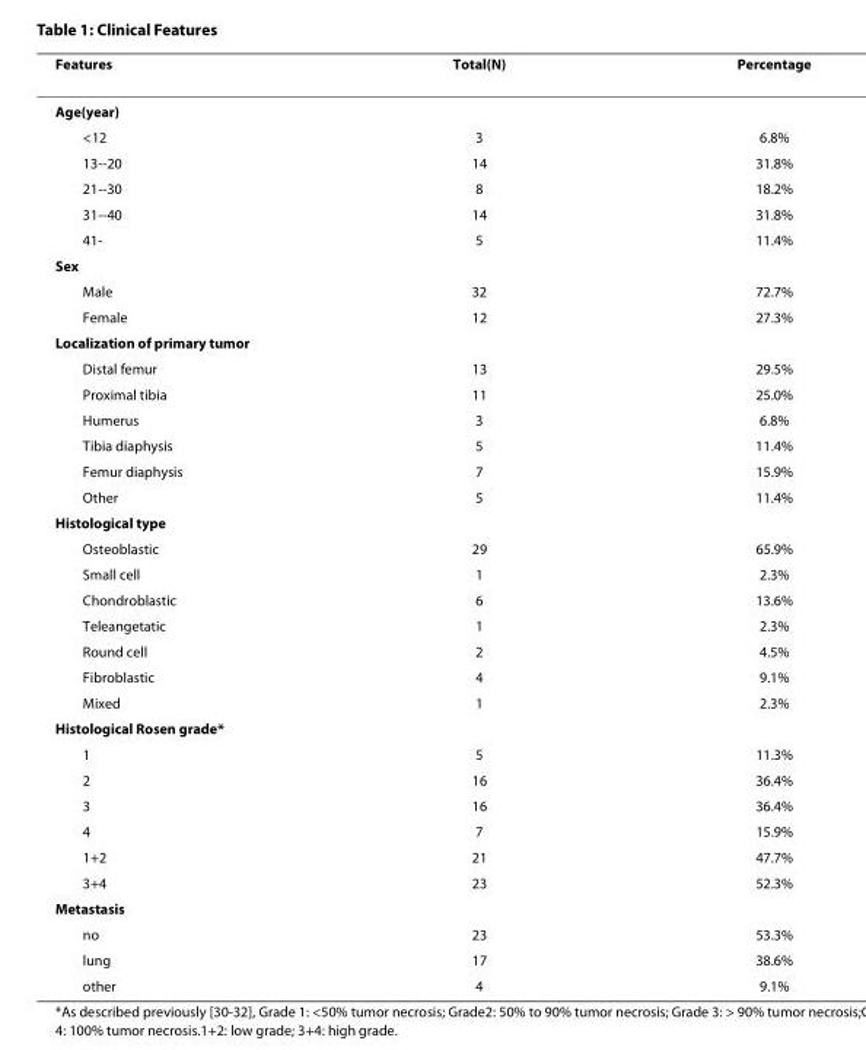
<table><thead><tr><td>Features</td><td>Total(N)</td><td>Percentage</td></tr></thead><tbody><tr><td colspan="3">Age(year)</td></tr><tr><td>&lt;12</td><td>3</td><td>6.8%</td></tr><tr><td>13--20</td><td>14</td><td>31.8%</td></tr><tr><td>21--30</td><td>8</td><td>18.2%</td></tr><tr><td>31--40</td><td>14</td><td>31.8%</td></tr><tr><td>41-</td><td>5</td><td>11.4%</td></tr><tr><td colspan="3">Sex</td></tr><tr><td>Male</td><td>32</td><td>72.7%</td></tr><tr><td>Female</td><td>12</td><td>27.3%</td></tr><tr><td colspan="3">Localization of primary tumor</td></tr><tr><td>Distal femur</td><td>13</td><td>29.5%</td></tr><tr><td>Proximal tibia</td><td>11</td><td>25.0%</td></tr><tr><td>Humerus</td><td>3</td><td>6.8%</td></tr><tr><td>Tibia diaphysis</td><td>5</td><td>11.4%</td></tr><tr><td>Femur diaphysis</td><td>7</td><td>15.9%</td></tr><tr><td>Other</td><td>5</td><td>11.4%</td></tr><tr><td colspan="3">Histological type</td></tr><tr><td>Osteoblastic</td><td>29</td><td>65.9%</td></tr><tr><td>Small cell</td><td>1</td><td>2.3%</td></tr><tr><td>Chondroblastic</td><td>6</td><td>13.6%</td></tr><tr><td>Teleangetatic</td><td>1</td><td>2.3%</td></tr><tr><td>Round cell</td><td>2</td><td>4.5%</td></tr><tr><td>Fibroblastic</td><td>4</td><td>9.1%</td></tr><tr><td>Mixed</td><td>1</td><td>2.3%</td></tr><tr><td colspan="3">Histological Rosen grade*</td></tr><tr><td>1</td><td>5</td><td>11.3%</td></tr><tr><td>2</td><td>16</td><td>36.4%</td></tr><tr><td>3</td><td>16</td><td>36.4%</td></tr><tr><td>4</td><td>7</td><td>15.9%</td></tr><tr><td>1+2</td><td>21</td><td>47.7%</td></tr><tr><td>3+4</td><td>23</td><td>52.3%</td></tr><tr><td colspan="3">Metastasis</td></tr><tr><td>no</td><td>23</td><td>53.3%</td></tr><tr><td>lung</td><td>17</td><td>38.6%</td></tr><tr><td>other</td><td>4</td><td>9.1%</td></tr></tbody></table>